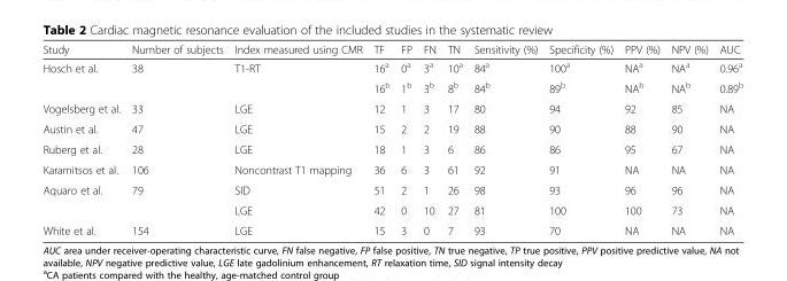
<table><thead><tr><td>Study</td><td>Number of subjects</td><td>Index measured using CMR</td><td>TF</td><td>FP</td><td>FN</td><td>TN</td><td>Sensitivity (%)</td><td>Specificity (%)</td><td>PPV (%)</td><td>NPV (%)</td><td>AUC</td></tr></thead><tbody><tr><td rowspan="2">Hosch et al.</td><td rowspan="2">38</td><td rowspan="2">T1-RT</td><td>16<sup>a</sup></td><td>0<sup>a</sup></td><td>3<sup>a</sup></td><td>10<sup>a</sup></td><td>84<sup>a</sup></td><td>100<sup>a</sup></td><td>NA<sup>a</sup></td><td>NA<sup>a</sup></td><td>0.96<sup>a</sup></td></tr><tr><td>16<sup>b</sup></td><td>1<sup>b</sup></td><td>3<sup>b</sup></td><td>8<sup>b</sup></td><td>84<sup>b</sup></td><td>89<sup>b</sup></td><td>NA<sup>b</sup></td><td>NA<sup>b</sup></td><td>0.89<sup>b</sup></td></tr><tr><td>Vogelsberg et al.</td><td>33</td><td>LGE</td><td>12</td><td>1</td><td>3</td><td>17</td><td>80</td><td>94</td><td>92</td><td>85</td><td>NA</td></tr><tr><td>Austin et al.</td><td>47</td><td>LGE</td><td>15</td><td>2</td><td>2</td><td>19</td><td>88</td><td>90</td><td>88</td><td>90</td><td>NA</td></tr><tr><td>Ruberg et al.</td><td>28</td><td>LGE</td><td>18</td><td>1</td><td>3</td><td>6</td><td>86</td><td>86</td><td>95</td><td>67</td><td>NA</td></tr><tr><td>Karamitsos et al.</td><td>106</td><td>Noncontrast T1 mapping</td><td>36</td><td>6</td><td>3</td><td>61</td><td>92</td><td>91</td><td>NA</td><td>NA</td><td>NA</td></tr><tr><td rowspan="2">Aquaro et al.</td><td rowspan="2">79</td><td>SID</td><td>51</td><td>2</td><td>1</td><td>26</td><td>98</td><td>93</td><td>96</td><td>96</td><td>NA</td></tr><tr><td>LGE</td><td>42</td><td>0</td><td>10</td><td>27</td><td>81</td><td>100</td><td>100</td><td>73</td><td>NA</td></tr><tr><td>White et al.</td><td>154</td><td>LGE</td><td>15</td><td>3</td><td>0</td><td>7</td><td>93</td><td>70</td><td>NA</td><td>NA</td><td>NA</td></tr></tbody></table>